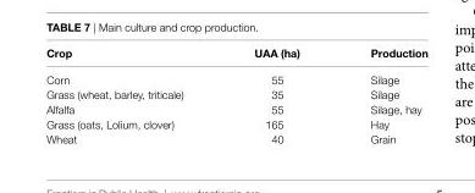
<table><thead><tr><td>crop</td><td>Uaa (ha)</td><td>Production</td></tr></thead><tbody><tr><td>Corn</td><td>55</td><td>Silage</td></tr><tr><td>Grass (wheat, barley, triticale)</td><td>35</td><td>Silage</td></tr><tr><td>Alfalfa</td><td>55</td><td>Silage, hay</td></tr><tr><td>Grass (oats, Lolium, clover)</td><td>165</td><td>Hay</td></tr><tr><td>Wheat</td><td>40</td><td>Grain</td></tr></tbody></table>